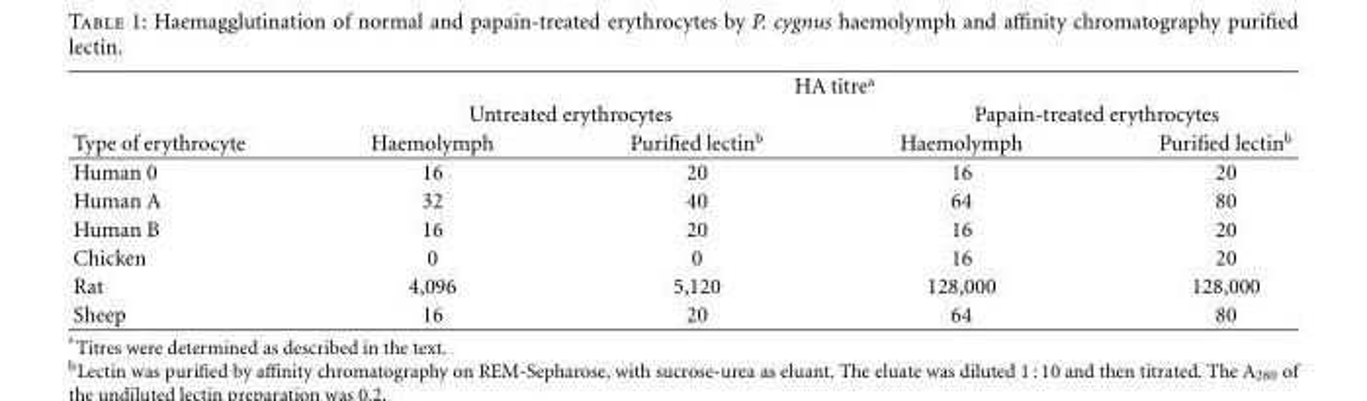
<table><thead><tr><td rowspan="3">Type of erythrocyte</td><td colspan="4">HA titre<sup>a</sup></td></tr><tr><td colspan="2">Untreated erythrocytes</td><td colspan="2">Papain-treated erythrocytes</td></tr><tr><td>Haemolymph</td><td>Purified lectin<sup>b</sup></td><td>Haemolymph</td><td>Purified lectin<sup>b</sup></td></tr></thead><tbody><tr><td>Human 0</td><td>16</td><td>20</td><td>16</td><td>20</td></tr><tr><td>Human A</td><td>32</td><td>40</td><td>64</td><td>80</td></tr><tr><td>Human B</td><td>16</td><td>20</td><td>16</td><td>20</td></tr><tr><td>Chicken</td><td>0</td><td>0</td><td>16</td><td>20</td></tr><tr><td>Rat</td><td>4,096</td><td>5,120</td><td>128,000</td><td>128,000</td></tr><tr><td>Sheep</td><td>16</td><td>20</td><td>64</td><td>80</td></tr></tbody></table>